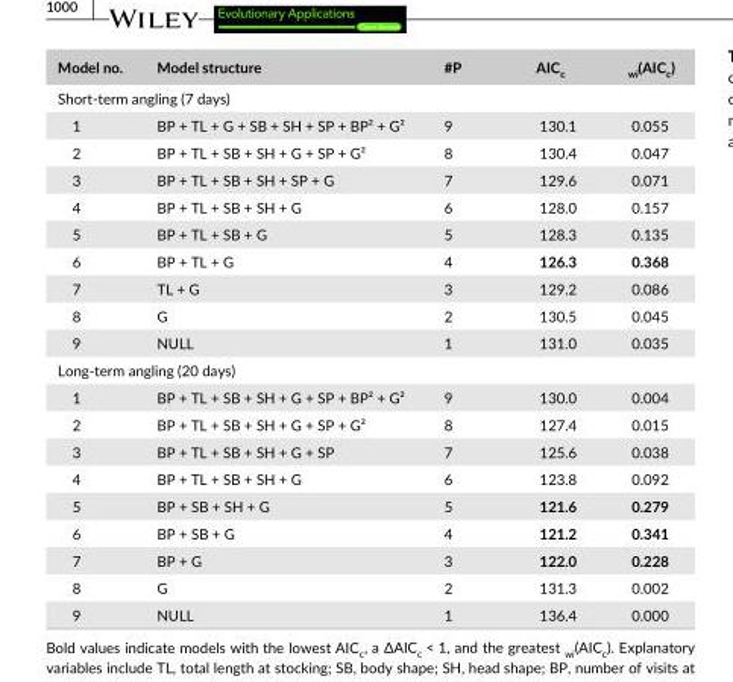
<table><thead><tr><td>Model no.</td><td>Model structure</td><td>#P</td><td>AIC<sub>c</sub></td><td><sub>wi</sub>(AIC<sub>c</sub>)</td></tr></thead><tbody><tr><td colspan="5">Short- term angling (7 days)</td></tr><tr><td>1</td><td>BP + TL + G + SB + SH + SP + BP² + G²</td><td>9</td><td>130.1</td><td>0.055</td></tr><tr><td>2</td><td>BP + TL + SB + SH + G + SP + G²</td><td>8</td><td>130.4</td><td>0.047</td></tr><tr><td>3</td><td>BP + TL + SB + SH + SP + G</td><td>7</td><td>129.6</td><td>0.071</td></tr><tr><td>4</td><td>BP + TL + SB + SH + G</td><td>6</td><td>128.0</td><td>0.157</td></tr><tr><td>5</td><td>BP + TL + SB + G</td><td>5</td><td>128.3</td><td>0.135</td></tr><tr><td>6</td><td>BP + TL + G</td><td>4</td><td>126.3</td><td>0.368</td></tr><tr><td>7</td><td>TL + G</td><td>3</td><td>129.2</td><td>0.086</td></tr><tr><td>8</td><td>G</td><td>2</td><td>130.5</td><td>0.045</td></tr><tr><td>9</td><td>NULL</td><td>1</td><td>131.0</td><td>0.035</td></tr><tr><td colspan="5">Long- term angling (20 days)</td></tr><tr><td>1</td><td>BP + TL + SB + SH + G + SP + BP² + G²</td><td>9</td><td>130.0</td><td>0.004</td></tr><tr><td>2</td><td>BP + TL + SB + SH + G + SP + G²</td><td>8</td><td>127.4</td><td>0.015</td></tr><tr><td>3</td><td>BP + TL + SB + SH + G + SP</td><td>7</td><td>125.6</td><td>0.038</td></tr><tr><td>4</td><td>BP + TL + SB + SH + G</td><td>6</td><td>123.8</td><td>0.092</td></tr><tr><td>5</td><td>BP + SB + SH + G</td><td>5</td><td>121.6</td><td>0.279</td></tr><tr><td>6</td><td>BP + SB + G</td><td>4</td><td>121.2</td><td>0.341</td></tr><tr><td>7</td><td>BP + G</td><td>3</td><td>122.0</td><td>0.228</td></tr><tr><td>8</td><td>G</td><td>2</td><td>131.3</td><td>0.002</td></tr><tr><td>9</td><td>NULL</td><td>1</td><td>136.4</td><td>0.000</td></tr></tbody></table>